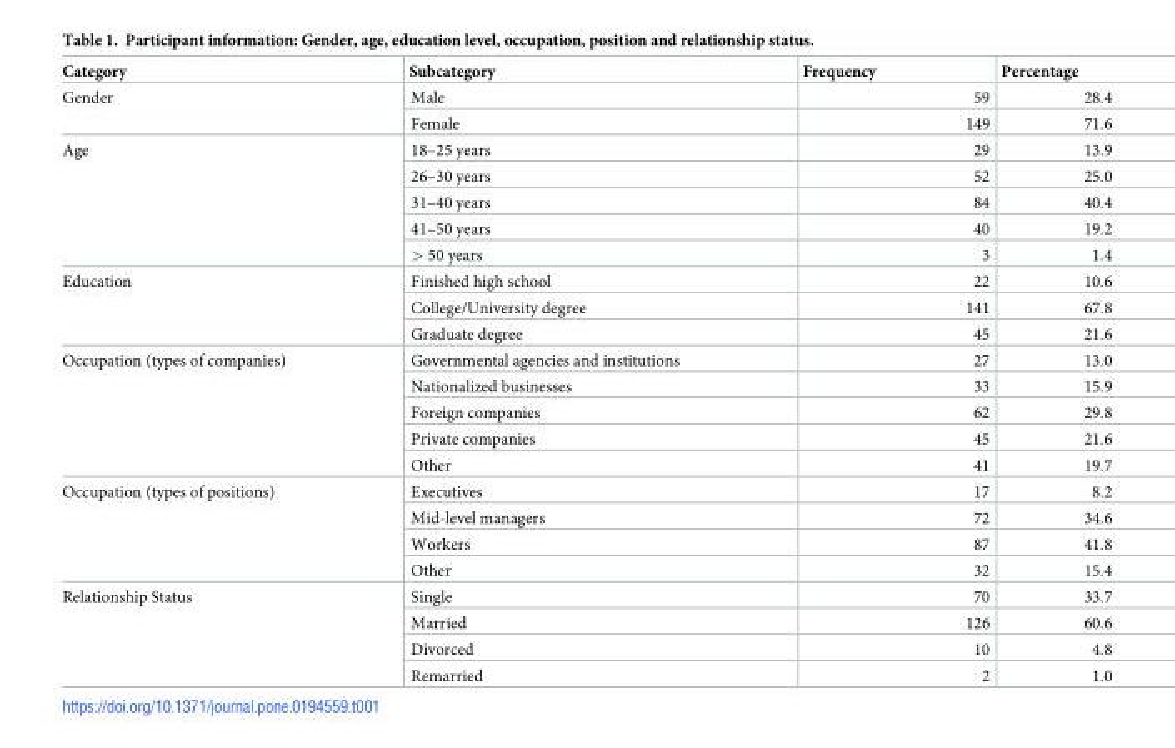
<table><thead><tr><td>Category</td><td>Subcategory</td><td>Frequency</td><td>Percentage</td></tr></thead><tbody><tr><td rowspan="2">Gender</td><td>Male</td><td>59</td><td>28.4</td></tr><tr><td>Female</td><td>149</td><td>71.6</td></tr><tr><td rowspan="5">Age</td><td>18–25 years</td><td>29</td><td>13.9</td></tr><tr><td>26–30 years</td><td>52</td><td>25.0</td></tr><tr><td>31–40 years</td><td>84</td><td>40.4</td></tr><tr><td>41–50 years</td><td>40</td><td>19.2</td></tr><tr><td>&gt; 50 years</td><td>3</td><td>1.4</td></tr><tr><td rowspan="3">Education</td><td>Finished high school</td><td>22</td><td>10.6</td></tr><tr><td>College/University degree</td><td>141</td><td>67.8</td></tr><tr><td>Graduate degree</td><td>45</td><td>21.6</td></tr><tr><td rowspan="5">Occupation (types of companies)</td><td>Governmental agencies and institutions</td><td>27</td><td>13.0</td></tr><tr><td>Nationalized businesses</td><td>33</td><td>15.9</td></tr><tr><td>Foreign companies</td><td>62</td><td>29.8</td></tr><tr><td>Private companies</td><td>45</td><td>21.6</td></tr><tr><td>Other</td><td>41</td><td>19.7</td></tr><tr><td rowspan="4">Occupation (types of positions)</td><td>Executives</td><td>17</td><td>8.2</td></tr><tr><td>Mid-level managers</td><td>72</td><td>34.6</td></tr><tr><td>Workers</td><td>87</td><td>41.8</td></tr><tr><td>Other</td><td>32</td><td>15.4</td></tr><tr><td rowspan="4">Relationship Status</td><td>Single</td><td>70</td><td>33.7</td></tr><tr><td>Married</td><td>126</td><td>60.6</td></tr><tr><td>Divorced</td><td>10</td><td>4.8</td></tr><tr><td>Remarried</td><td>2</td><td>1.0</td></tr></tbody></table>